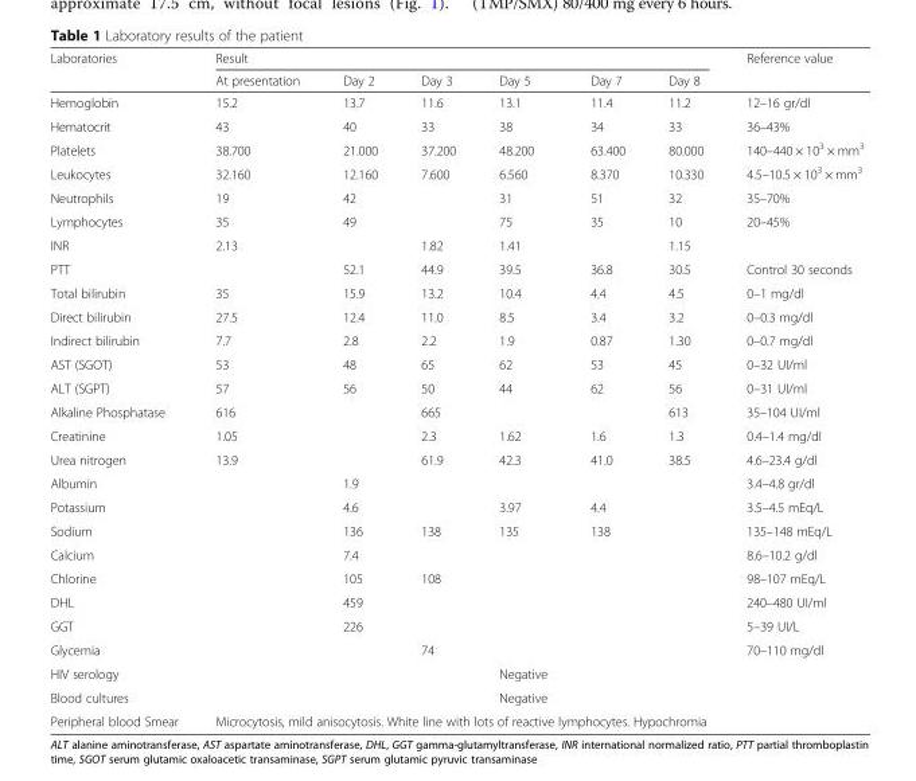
<table><thead><tr><td rowspan="2">Laboratories</td><td colspan="6">Result</td><td rowspan="2">Reference value</td></tr><tr><td>At presentation</td><td>Day 2</td><td>Day 3</td><td>Day 5</td><td>Day 7</td><td>Day 8</td></tr></thead><tbody><tr><td>Hemoglobin</td><td>15.2</td><td>13.7</td><td>11.6</td><td>13.1</td><td>11.4</td><td>11.2</td><td>12–16 gr/dl</td></tr><tr><td>Hematocrit</td><td>43</td><td>40</td><td>33</td><td>38</td><td>34</td><td>33</td><td>36–43%</td></tr><tr><td>Platelets</td><td>38.700</td><td>21.000</td><td>37.200</td><td>48.200</td><td>63.400</td><td>80.000</td><td>140–440 × 10<sup>3</sup> × mm<sup>3</sup></td></tr><tr><td>Leukocytes</td><td>32.160</td><td>12.160</td><td>7.600</td><td>6.560</td><td>8.370</td><td>10.330</td><td>4.5–10.5 × 10<sup>3</sup> × mm<sup>3</sup></td></tr><tr><td>Neutrophils</td><td>19</td><td>42</td><td></td><td>31</td><td>51</td><td>32</td><td>35–70%</td></tr><tr><td>Lymphocytes</td><td>35</td><td>49</td><td></td><td>75</td><td>35</td><td>10</td><td>20–45%</td></tr><tr><td>INR</td><td>2.13</td><td></td><td>1.82</td><td>1.41</td><td></td><td>1.15</td><td></td></tr><tr><td>PTT</td><td></td><td>52.1</td><td>44.9</td><td>39.5</td><td>36.8</td><td>30.5</td><td>Control 30 seconds</td></tr><tr><td>Total bilirubin</td><td>35</td><td>15.9</td><td>13.2</td><td>10.4</td><td>4.4</td><td>4.5</td><td>0–1 mg/dl</td></tr><tr><td>Direct bilirubin</td><td>27.5</td><td>12.4</td><td>11.0</td><td>8.5</td><td>3.4</td><td>3.2</td><td>0–0.3 mg/dl</td></tr><tr><td>Indirect bilirubin</td><td>7.7</td><td>2.8</td><td>2.2</td><td>1.9</td><td>0.87</td><td>1.30</td><td>0–0.7 mg/dl</td></tr><tr><td>AST (SGOT)</td><td>53</td><td>48</td><td>65</td><td>62</td><td>53</td><td>45</td><td>0–32 UI/ml</td></tr><tr><td>ALT (SGPT)</td><td>57</td><td>56</td><td>50</td><td>44</td><td>62</td><td>56</td><td>0–31 UI/ml</td></tr><tr><td>Alkaline Phosphatase</td><td>616</td><td></td><td>665</td><td></td><td></td><td>613</td><td>35–104 UI/ml</td></tr><tr><td>Creatinine</td><td>1.05</td><td></td><td>2.3</td><td>1.62</td><td>1.6</td><td>1.3</td><td>0.4–1.4 mg/dl</td></tr><tr><td>Urea nitrogen</td><td>13.9</td><td></td><td>61.9</td><td>42.3</td><td>41.0</td><td>38.5</td><td>4.6–23.4 g/dl</td></tr><tr><td>Albumin</td><td></td><td>1.9</td><td></td><td></td><td></td><td></td><td>3.4–4.8 gr/dl</td></tr><tr><td>Potassium</td><td></td><td>4.6</td><td></td><td>3.97</td><td>4.4</td><td></td><td>3.5–4.5 mEq/L</td></tr><tr><td>Sodium</td><td></td><td>136</td><td>138</td><td>135</td><td>138</td><td></td><td>135–148 mEq/L</td></tr><tr><td>Calcium</td><td></td><td>7.4</td><td></td><td></td><td></td><td></td><td>8.6–10.2 g/dl</td></tr><tr><td>Chlorine</td><td></td><td>105</td><td>108</td><td></td><td></td><td></td><td>98–107 mEq/L</td></tr><tr><td>DHL</td><td></td><td>459</td><td></td><td></td><td></td><td></td><td>240–480 UI/ml</td></tr><tr><td>GGT</td><td></td><td>226</td><td></td><td></td><td></td><td></td><td>5–39 UI/L</td></tr><tr><td>Glycemia</td><td></td><td></td><td>74</td><td></td><td></td><td></td><td>70–110 mg/dl</td></tr><tr><td>HIV serology</td><td></td><td></td><td></td><td>Negative</td><td></td><td></td><td></td></tr><tr><td>Blood cultures</td><td></td><td></td><td></td><td>Negative</td><td></td><td></td><td></td></tr><tr><td>Peripheral blood Smear</td><td colspan="7">Microcytosis, mild anisocytosis. White line with lots of reactive lymphocytes. Hypochromia</td></tr></tbody></table>